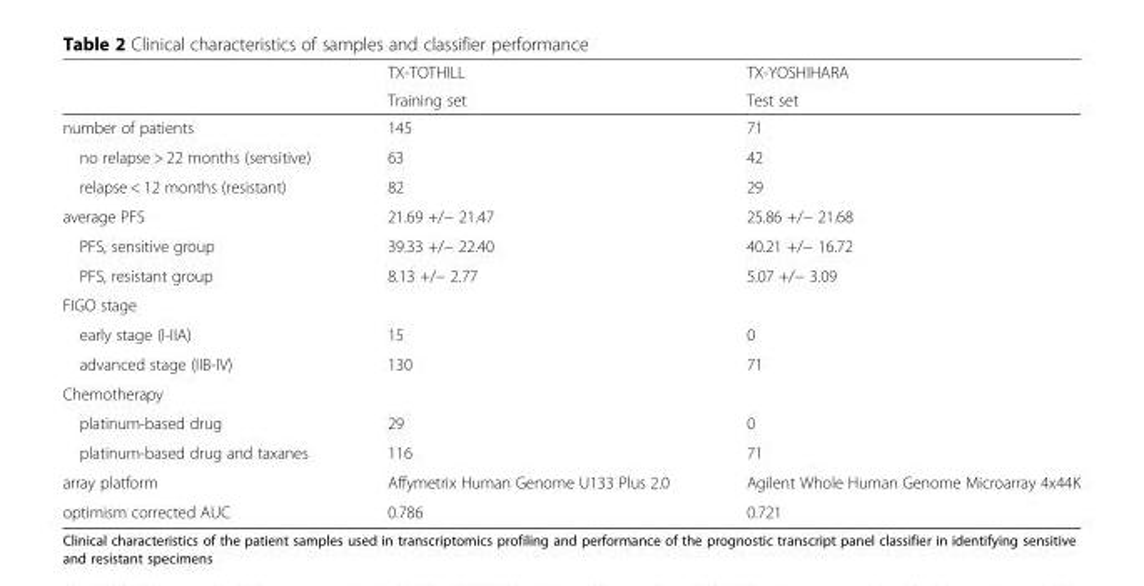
<table><thead><tr><td rowspan="2"></td><td rowspan="2">TX-TOTHILL Training set</td><td rowspan="2">TX-YOSHIHARA Test set</td></tr><tr></tr></thead><tbody><tr><td>number of patients</td><td>145</td><td>71</td></tr><tr><td>no relapse &gt; 22 months (sensitive)</td><td>63</td><td>42</td></tr><tr><td>relapse &lt; 12 months (resistant)</td><td>82</td><td>29</td></tr><tr><td>average PFS</td><td>21.69 +/− 21.47</td><td>25.86 +/− 21.68</td></tr><tr><td>PFS, sensitive group</td><td>39.33 +/− 22.40</td><td>40.21 +/− 16.72</td></tr><tr><td>PFS, resistant group</td><td>8.13 +/− 2.77</td><td>5.07 +/− 3.09</td></tr><tr><td colspan="3">FIGO stage</td></tr><tr><td>early stage (I-IIA)</td><td>15</td><td>0</td></tr><tr><td>advanced stage (IIB-IV)</td><td>130</td><td>71</td></tr><tr><td colspan="3">Chemotherapy</td></tr><tr><td>platinum-based drug</td><td>29</td><td>0</td></tr><tr><td>platinum-based drug and taxanes</td><td>116</td><td>71</td></tr><tr><td>array platform</td><td>Affymetrix Human Genome U133 Plus 2.0</td><td>Agilent Whole Human Genome Microarray 4x44K</td></tr><tr><td>optimism corrected AUC</td><td>0.786</td><td>0.721</td></tr></tbody></table>